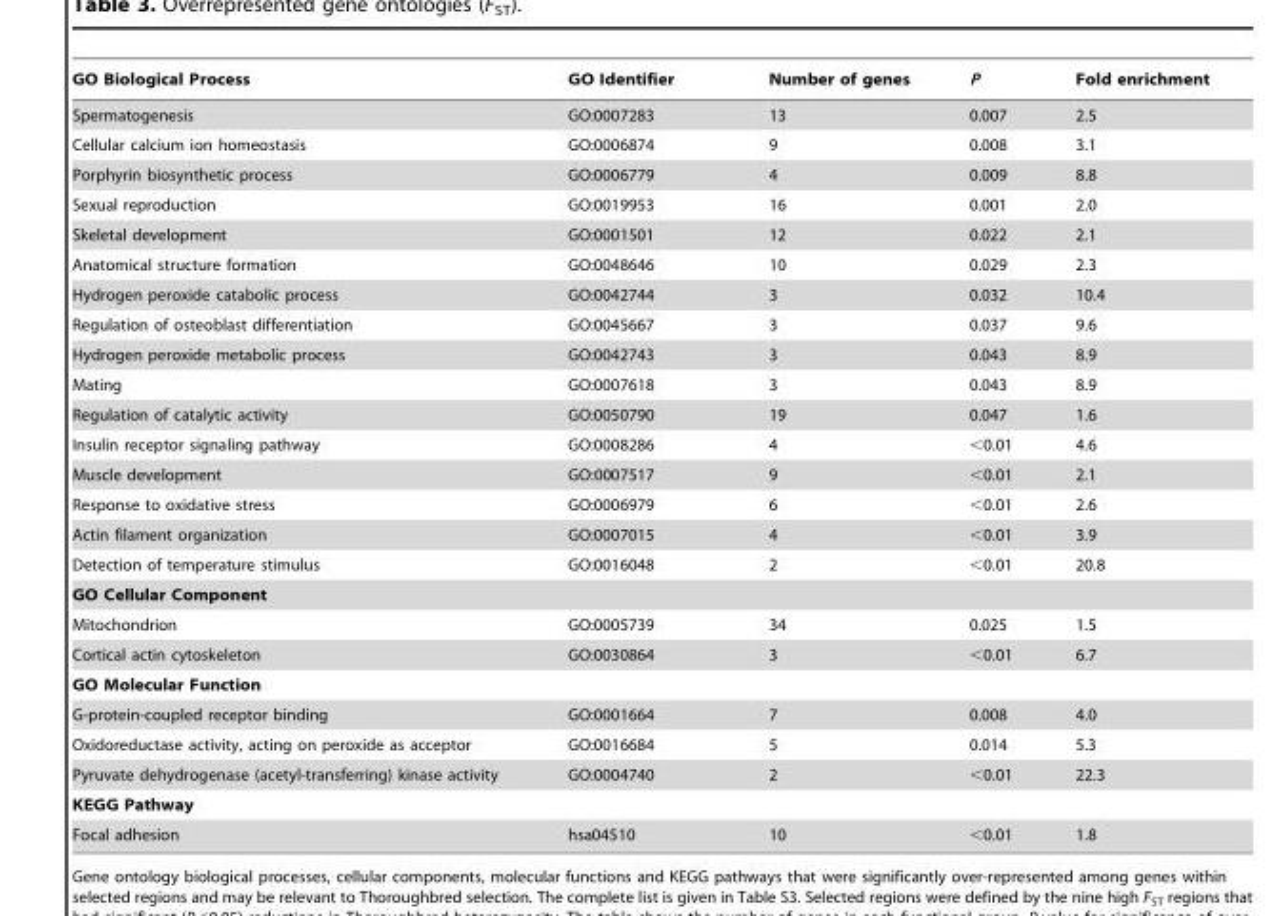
<table><thead><tr><td>GO Biological Process</td><td>GO Identifier</td><td>Number of genes</td><td>P</td><td>Fold enrichment</td></tr></thead><tbody><tr><td>Spermatogenesis</td><td>GO:0007283</td><td>13</td><td>0.007</td><td>2.5</td></tr><tr><td>Cellular calcium ion homeostasis</td><td>GO:0006874</td><td>9</td><td>0.008</td><td>3.1</td></tr><tr><td>Porphyrin biosynthetic process</td><td>GO:0006779</td><td>4</td><td>0.009</td><td>8.8</td></tr><tr><td>Sexual reproduction</td><td>GO:0019953</td><td>16</td><td>0.001</td><td>2.0</td></tr><tr><td>Skeletal development</td><td>GO:0001501</td><td>12</td><td>0.022</td><td>2.1</td></tr><tr><td>Anatomical structure formation</td><td>GO:0048646</td><td>10</td><td>0.029</td><td>2.3</td></tr><tr><td>Hydrogen peroxide catabolic process</td><td>GO:0042744</td><td>3</td><td>0.032</td><td>10.4</td></tr><tr><td>Regulation of osteoblast differentiation</td><td>GO:0045667</td><td>3</td><td>0.037</td><td>9.6</td></tr><tr><td>Hydrogen peroxide metabolic process</td><td>GO:0042743</td><td>3</td><td>0.043</td><td>8.9</td></tr><tr><td>Mating</td><td>GO:0007618</td><td>3</td><td>0.043</td><td>8.9</td></tr><tr><td>Regulation of catalytic activity</td><td>GO:0050790</td><td>19</td><td>0.047</td><td>1.6</td></tr><tr><td>Insulin receptor signaling pathway</td><td>GO:0008286</td><td>4</td><td>&lt;0.01</td><td>4.6</td></tr><tr><td>Muscle development</td><td>GO:0007517</td><td>9</td><td>&lt;0.01</td><td>2.1</td></tr><tr><td>Response to oxidative stress</td><td>GO:0006979</td><td>6</td><td>&lt;0.01</td><td>2.6</td></tr><tr><td>Actin filament organization</td><td>GO:0007015</td><td>4</td><td>&lt;0.01</td><td>3.9</td></tr><tr><td>Detection of temperature stimulus</td><td>GO:0016048</td><td>2</td><td>&lt;0.01</td><td>20.8</td></tr><tr><td colspan="5">GO Cellular Component</td></tr><tr><td>Mitochondrion</td><td>GO:0005739</td><td>34</td><td>0.025</td><td>1.5</td></tr><tr><td>Cortical actin cytoskeleton</td><td>GO:0030864</td><td>3</td><td>&lt;0.01</td><td>6.7</td></tr><tr><td colspan="5">GO Molecular Function</td></tr><tr><td>G-protein-coupled receptor binding</td><td>GO:0001664</td><td>7</td><td>0.008</td><td>4.0</td></tr><tr><td>Oxidoreductase activity, acting on peroxide as acceptor</td><td>GO:0016684</td><td>5</td><td>0.014</td><td>5.3</td></tr><tr><td>Pyruvate dehydrogenase (acetyl-transferring) kinase activity</td><td>GO:0004740</td><td>2</td><td>&lt;0.01</td><td>22.3</td></tr><tr><td colspan="5">KEGG Pathway</td></tr><tr><td>Focal adhesion</td><td>hsa04510</td><td>10</td><td>&lt;0.01</td><td>1.8</td></tr></tbody></table>